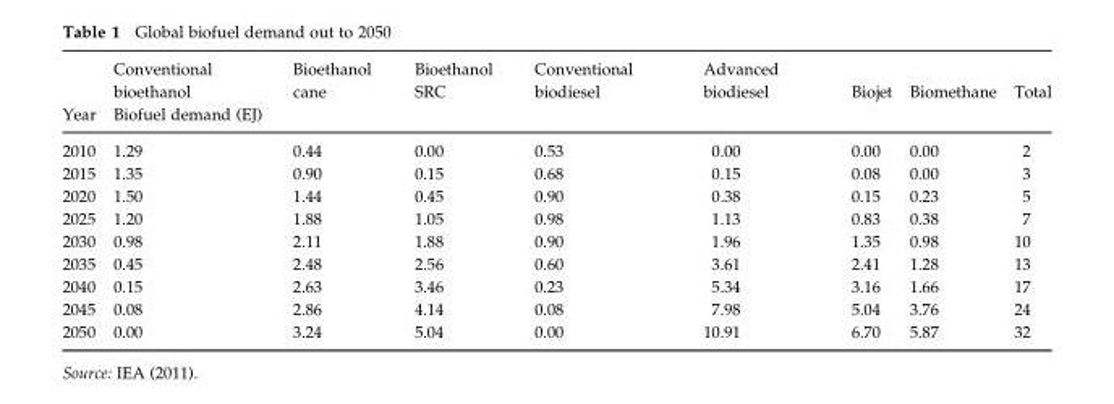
<table><thead><tr><td rowspan="2">Year</td><td>Conventional bioethanol</td><td>Bioethanol cane</td><td>Bioethanol SRC</td><td>Conventional biodiesel</td><td>Advanced biodiesel</td><td>Biojet</td><td>Biomethane</td><td>Total</td></tr><tr><td colspan="8">Biofuel demand (EJ)</td></tr></thead><tbody><tr><td>2010</td><td>1.29</td><td>0.44</td><td>0.00</td><td>0.53</td><td>0.00</td><td>0.00</td><td>0.00</td><td>2</td></tr><tr><td>2015</td><td>1.35</td><td>0.90</td><td>0.15</td><td>0.68</td><td>0.15</td><td>0.08</td><td>0.00</td><td>3</td></tr><tr><td>2020</td><td>1.50</td><td>1.44</td><td>0.45</td><td>0.90</td><td>0.38</td><td>0.15</td><td>0.23</td><td>5</td></tr><tr><td>2025</td><td>1.20</td><td>1.88</td><td>1.05</td><td>0.98</td><td>1.13</td><td>0.83</td><td>0.38</td><td>7</td></tr><tr><td>2030</td><td>0.98</td><td>2.11</td><td>1.88</td><td>0.90</td><td>1.96</td><td>1.35</td><td>0.98</td><td>10</td></tr><tr><td>2035</td><td>0.45</td><td>2.48</td><td>2.56</td><td>0.60</td><td>3.61</td><td>2.41</td><td>1.28</td><td>13</td></tr><tr><td>2040</td><td>0.15</td><td>2.63</td><td>3.46</td><td>0.23</td><td>5.34</td><td>3.16</td><td>1.66</td><td>17</td></tr><tr><td>2045</td><td>0.08</td><td>2.86</td><td>4.14</td><td>0.08</td><td>7.98</td><td>5.04</td><td>3.76</td><td>24</td></tr><tr><td>2050</td><td>0.00</td><td>3.24</td><td>5.04</td><td>0.00</td><td>10.91</td><td>6.70</td><td>5.87</td><td>32</td></tr></tbody></table>